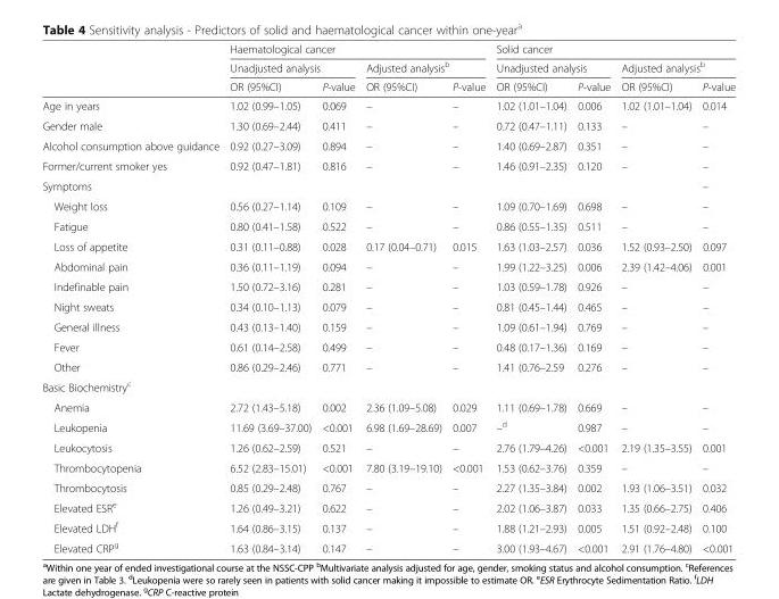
<table><thead><tr><td rowspan="3"></td><td colspan="4">Haematological cancer</td><td colspan="4">Solid cancer</td></tr><tr><td colspan="2">Unadjusted analysis</td><td colspan="2">Adjusted analysis<sup>b</sup></td><td colspan="2">Unadjusted analysis</td><td colspan="2">Adjusted analysis<sup>b</sup></td></tr><tr><td>OR (95%CI)</td><td>P-value</td><td>OR (95%CI)</td><td>P-value</td><td>OR (95%CI)</td><td>P-value</td><td>OR (95%CI)</td><td>P-value</td></tr></thead><tbody><tr><td>Age in years</td><td>1.02 (0.99–1.05)</td><td>0.069</td><td>–</td><td>–</td><td>1.02 (1.01–1.04)</td><td>0.006</td><td>1.02 (1.01–1.04)</td><td>0.014</td></tr><tr><td>Gender male</td><td>1.30 (0.69–2.44)</td><td>0.411</td><td>–</td><td>–</td><td>0.72 (0.47–1.11)</td><td>0.133</td><td>–</td><td>–</td></tr><tr><td>Alcohol consumption above guidance</td><td>0.92 (0.27–3.09)</td><td>0.894</td><td>–</td><td>–</td><td>1.40 (0.69–2.87)</td><td>0.351</td><td>–</td><td>–</td></tr><tr><td>Former/current smoker yes</td><td>0.92 (0.47–1.81)</td><td>0.816</td><td>–</td><td>–</td><td>1.46 (0.91–2.35)</td><td>0.120</td><td>–</td><td>–</td></tr><tr><td>Symptoms</td><td></td><td></td><td></td><td></td><td></td><td></td><td></td><td>–</td></tr><tr><td>Weight loss</td><td>0.56 (0.27–1.14)</td><td>0.109</td><td>–</td><td>–</td><td>1.09 (0.70–1.69)</td><td>0.698</td><td>–</td><td>–</td></tr><tr><td>Fatigue</td><td>0.80 (0.41–1.58)</td><td>0.522</td><td>–</td><td>–</td><td>0.86 (0.55–1.35)</td><td>0.511</td><td>–</td><td>–</td></tr><tr><td>Loss of appetite</td><td>0.31 (0.11–0.88)</td><td>0.028</td><td>0.17 (0.04–0.71)</td><td>0.015</td><td>1.63 (1.03–2.57)</td><td>0.036</td><td>1.52 (0.93–2.50)</td><td>0.097</td></tr><tr><td>Abdominal pain</td><td>0.36 (0.11–1.19)</td><td>0.094</td><td>–</td><td>–</td><td>1.99 (1.22–3.25)</td><td>0.006</td><td>2.39 (1.42–4.06)</td><td>0.001</td></tr><tr><td>Indefinable pain</td><td>1.50 (0.72–3.16)</td><td>0.281</td><td>–</td><td>–</td><td>1.03 (0.59–1.78)</td><td>0.926</td><td>–</td><td>–</td></tr><tr><td>Night sweats</td><td>0.34 (0.10–1.13)</td><td>0.079</td><td>–</td><td>–</td><td>0.81 (0.45–1.44)</td><td>0.465</td><td>–</td><td>–</td></tr><tr><td>General illness</td><td>0.43 (0.13–1.40)</td><td>0.159</td><td>–</td><td>–</td><td>1.09 (0.61–1.94)</td><td>0.769</td><td>–</td><td>–</td></tr><tr><td>Fever</td><td>0.61 (0.14–2.58)</td><td>0.499</td><td>–</td><td>–</td><td>0.48 (0.17–1.36)</td><td>0.169</td><td>–</td><td>–</td></tr><tr><td>Other</td><td>0.86 (0.29–2.46)</td><td>0.771</td><td>–</td><td>–</td><td>1.41 (0.76–2.59</td><td>0.276</td><td>–</td><td>–</td></tr><tr><td colspan="9">Basic Biochemistry<sup>c</sup></td></tr><tr><td>Anemia</td><td>2.72 (1.43–5.18)</td><td>0.002</td><td>2.36 (1.09–5.08)</td><td>0.029</td><td>1.11 (0.69–1.78)</td><td>0.669</td><td>–</td><td>–</td></tr><tr><td>Leukopenia</td><td>11.69 (3.69–37.00)</td><td>&lt;0.001</td><td>6.98 (1.69–28.69)</td><td>0.007</td><td>–<sup>d</sup></td><td>0.987</td><td>–</td><td>–</td></tr><tr><td>Leukocytosis</td><td>1.26 (0.62–2.59)</td><td>0.521</td><td>–</td><td>–</td><td>2.76 (1.79–4.26)</td><td>&lt;0.001</td><td>2.19 (1.35–3.55)</td><td>0.001</td></tr><tr><td>Thrombocytopenia</td><td>6.52 (2.83–15.01)</td><td>&lt;0.001</td><td>7.80 (3.19–19.10)</td><td>&lt;0.001</td><td>1.53 (0.62–3.76)</td><td>0.359</td><td>–</td><td>–</td></tr><tr><td>Thrombocytosis</td><td>0.85 (0.29–2.48)</td><td>0.767</td><td>–</td><td>–</td><td>2.27 (1.35–3.84)</td><td>0.002</td><td>1.93 (1.06–3.51)</td><td>0.032</td></tr><tr><td>Elevated ESR<sup>e</sup></td><td>1.26 (0.49–3.21)</td><td>0.622</td><td>–</td><td>–</td><td>2.02 (1.06–3.87)</td><td>0.033</td><td>1.35 (0.66–2.75)</td><td>0.406</td></tr><tr><td>Elevated LDH<sup>f</sup></td><td>1.64 (0.86–3.15)</td><td>0.137</td><td>–</td><td>–</td><td>1.88 (1.21–2.93)</td><td>0.005</td><td>1.51 (0.92–2.48)</td><td>0.100</td></tr><tr><td>Elevated CRP<sup>g</sup></td><td>1.63 (0.84–3.14)</td><td>0.147</td><td>–</td><td>–</td><td>3.00 (1.93–4.67)</td><td>&lt;0.001</td><td>2.91 (1.76–4.80)</td><td>&lt;0.001</td></tr></tbody></table>